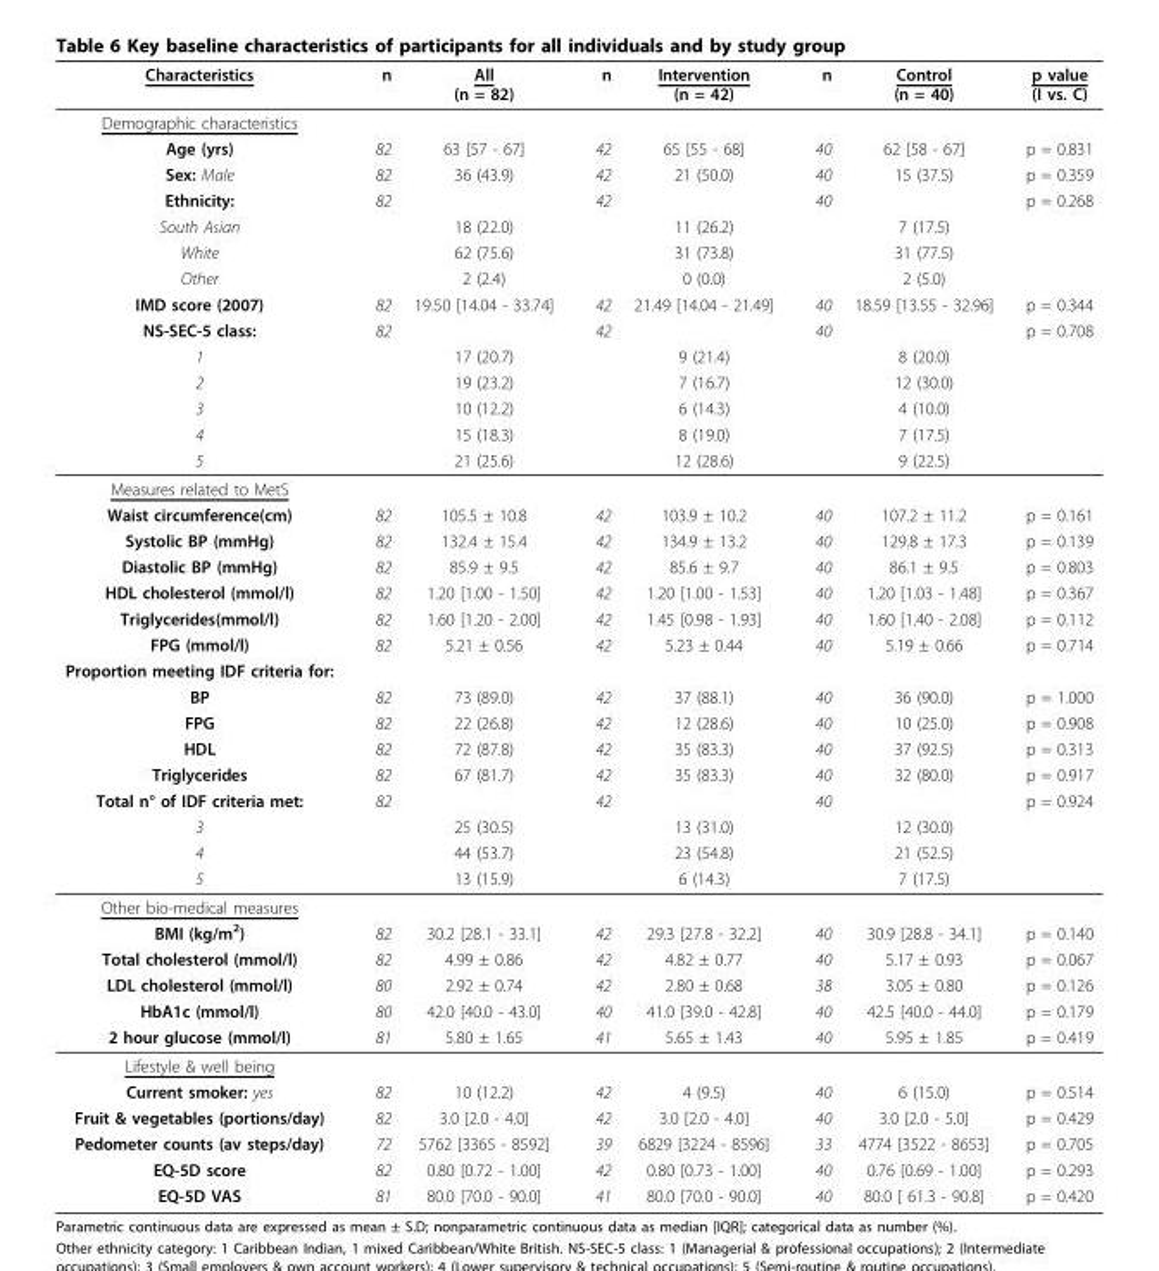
<table><thead><tr><td>Characteristics</td><td>n</td><td>All (n = 82)</td><td>n</td><td>Intervention (n = 42)</td><td>n</td><td>Control (n = 40)</td><td>p value (I vs. C)</td></tr></thead><tbody><tr><td colspan="8">Demographic characteristics</td></tr><tr><td>Age (yrs)</td><td>82</td><td>63 [57 - 67]</td><td>42</td><td>65 [55 - 68]</td><td>40</td><td>62 [58 - 67]</td><td>p = 0.831</td></tr><tr><td>Sex: Male</td><td>82</td><td>36 (43.9)</td><td>42</td><td>21 (50.0)</td><td>40</td><td>15 (37.5)</td><td>p = 0.359</td></tr><tr><td>Ethnicity:</td><td>82</td><td></td><td>42</td><td></td><td>40</td><td></td><td>p = 0.268</td></tr><tr><td>South Asian</td><td></td><td>18 (22.0)</td><td></td><td>11 (26.2)</td><td></td><td>7 (17.5)</td><td></td></tr><tr><td>White</td><td></td><td>62 (75.6)</td><td></td><td>31 (73.8)</td><td></td><td>31 (77.5)</td><td></td></tr><tr><td>Other</td><td></td><td>2 (2.4)</td><td></td><td>0 (0.0)</td><td></td><td>2 (5.0)</td><td></td></tr><tr><td>IMD score (2007)</td><td>82</td><td>19.50 [14.04 - 33.74]</td><td>42</td><td>21.49 [14.04 - 21.49]</td><td>40</td><td>18.59 [13.55 - 32.96]</td><td>p = 0.344</td></tr><tr><td>NS-SEC-5 class:</td><td>82</td><td></td><td>42</td><td></td><td>40</td><td></td><td>p = 0.708</td></tr><tr><td>1</td><td></td><td>17 (20.7)</td><td></td><td>9 (21.4)</td><td></td><td>8 (20.0)</td><td></td></tr><tr><td>2</td><td></td><td>19 (23.2)</td><td></td><td>7 (16.7)</td><td></td><td>12 (30.0)</td><td></td></tr><tr><td>3</td><td></td><td>10 (12.2)</td><td></td><td>6 (14.3)</td><td></td><td>4 (10.0)</td><td></td></tr><tr><td>4</td><td></td><td>15 (18.3)</td><td></td><td>8 (19.0)</td><td></td><td>7 (17.5)</td><td></td></tr><tr><td>5</td><td></td><td>21 (25.6)</td><td></td><td>12 (28.6)</td><td></td><td>9 (22.5)</td><td></td></tr><tr><td colspan="8">Measures related to MetS</td></tr><tr><td>Waist circumference(cm)</td><td>82</td><td>105.5 ± 10.8</td><td>42</td><td>103.9 ± 10.2</td><td>40</td><td>107.2 ± 11.2</td><td>p = 0.161</td></tr><tr><td>Systolic BP (mmHg)</td><td>82</td><td>132.4 ± 15.4</td><td>42</td><td>134.9 ± 13.2</td><td>40</td><td>129.8 ± 17.3</td><td>p = 0.139</td></tr><tr><td>Diastolic BP (mmHg)</td><td>82</td><td>85.9 ± 9.5</td><td>42</td><td>85.6 ± 9.7</td><td>40</td><td>86.1 ± 9.5</td><td>p = 0.803</td></tr><tr><td>HDL cholesterol (mmol/l)</td><td>82</td><td>1.20 [1.00 - 1.50]</td><td>42</td><td>1.20 [1.00 - 1.53]</td><td>40</td><td>1.20 [1.03 - 1.48]</td><td>p = 0.367</td></tr><tr><td>Triglycerides(mmol/l)</td><td>82</td><td>1.60 [1.20 - 2.00]</td><td>42</td><td>1.45 [0.98 - 1.93]</td><td>40</td><td>1.60 [1.40 - 2.08]</td><td>p = 0.112</td></tr><tr><td>FPG (mmol/l)</td><td>82</td><td>5.21 ± 0.56</td><td>42</td><td>5.23 ± 0.44</td><td>40</td><td>5.19 ± 0.66</td><td>p = 0.714</td></tr><tr><td colspan="8">Proportion meeting IDF criteria for:</td></tr><tr><td>BP</td><td>82</td><td>73 (89.0)</td><td>42</td><td>37 (88.1)</td><td>40</td><td>36 (90.0)</td><td>p = 1.000</td></tr><tr><td>FPG</td><td>82</td><td>22 (26.8)</td><td>42</td><td>12 (28.6)</td><td>40</td><td>10 (25.0)</td><td>p = 0.908</td></tr><tr><td>HDL</td><td>82</td><td>72 (87.8)</td><td>42</td><td>35 (83.3)</td><td>40</td><td>37 (92.5)</td><td>p = 0.313</td></tr><tr><td>Triglycerides</td><td>82</td><td>67 (81.7)</td><td>42</td><td>35 (83.3)</td><td>40</td><td>32 (80.0)</td><td>p = 0.917</td></tr><tr><td>Total n° of IDF criteria met:</td><td>82</td><td></td><td>42</td><td></td><td>40</td><td></td><td>p = 0.924</td></tr><tr><td>3</td><td></td><td>25 (30.5)</td><td></td><td>13 (31.0)</td><td></td><td>12 (30.0)</td><td></td></tr><tr><td>4</td><td></td><td>44 (53.7)</td><td></td><td>23 (54.8)</td><td></td><td>21 (52.5)</td><td></td></tr><tr><td>5</td><td></td><td>13 (15.9)</td><td></td><td>6 (14.3)</td><td></td><td>7 (17.5)</td><td></td></tr><tr><td colspan="8">Other bio-medical measures</td></tr><tr><td>BMI (kg/m<sup>2</sup>)</td><td>82</td><td>30.2 [28.1 - 33.1]</td><td>42</td><td>29.3 [27.8 - 32.2]</td><td>40</td><td>30.9 [28.8 - 34.1]</td><td>p = 0.140</td></tr><tr><td>Total cholesterol (mmol/l)</td><td>82</td><td>4.99 ± 0.86</td><td>42</td><td>4.82 ± 0.77</td><td>40</td><td>5.17 ± 0.93</td><td>p = 0.067</td></tr><tr><td>LDL cholesterol (mmol/l)</td><td>80</td><td>2.92 ± 0.74</td><td>42</td><td>2.80 ± 0.68</td><td>38</td><td>3.05 ± 0.80</td><td>p = 0.126</td></tr><tr><td>HbA1c (mmol/l)</td><td>80</td><td>42.0 [40.0 - 43.0]</td><td>40</td><td>41.0 [39.0 - 42.8]</td><td>40</td><td>42.5 [40.0 - 44.0]</td><td>p = 0.179</td></tr><tr><td>2 hour glucose (mmol/l)</td><td>81</td><td>5.80 ± 1.65</td><td>41</td><td>5.65 ± 1.43</td><td>40</td><td>5.95 ± 1.85</td><td>p = 0.419</td></tr><tr><td colspan="8">Lifestyle &amp; well being</td></tr><tr><td>Current smoker: yes</td><td>82</td><td>10 (12.2)</td><td>42</td><td>4 (9.5)</td><td>40</td><td>6 (15.0)</td><td>p = 0.514</td></tr><tr><td>Fruit &amp; vegetables (portions/day)</td><td>82</td><td>3.0 [2.0 - 4.0]</td><td>42</td><td>3.0 [2.0 - 4.0]</td><td>40</td><td>3.0 [2.0 - 5.0]</td><td>p = 0.429</td></tr><tr><td>Pedometer counts (av steps/day)</td><td>72</td><td>5762 [3365 - 8592]</td><td>39</td><td>6829 [3224 - 8596]</td><td>33</td><td>4774 [3522 - 8653]</td><td>p = 0.705</td></tr><tr><td>EQ-5D score</td><td>82</td><td>0.80 [0.72 - 1.00]</td><td>42</td><td>0.80 [0.73 - 1.00]</td><td>40</td><td>0.76 [0.69 - 1.00]</td><td>p = 0.293</td></tr><tr><td>EQ-5D VAS</td><td>81</td><td>80.0 [70.0 - 90.0]</td><td>41</td><td>80.0 [70.0 - 90.0]</td><td>40</td><td>80.0 [ 61.3 - 90.8]</td><td>p = 0.420</td></tr></tbody></table>